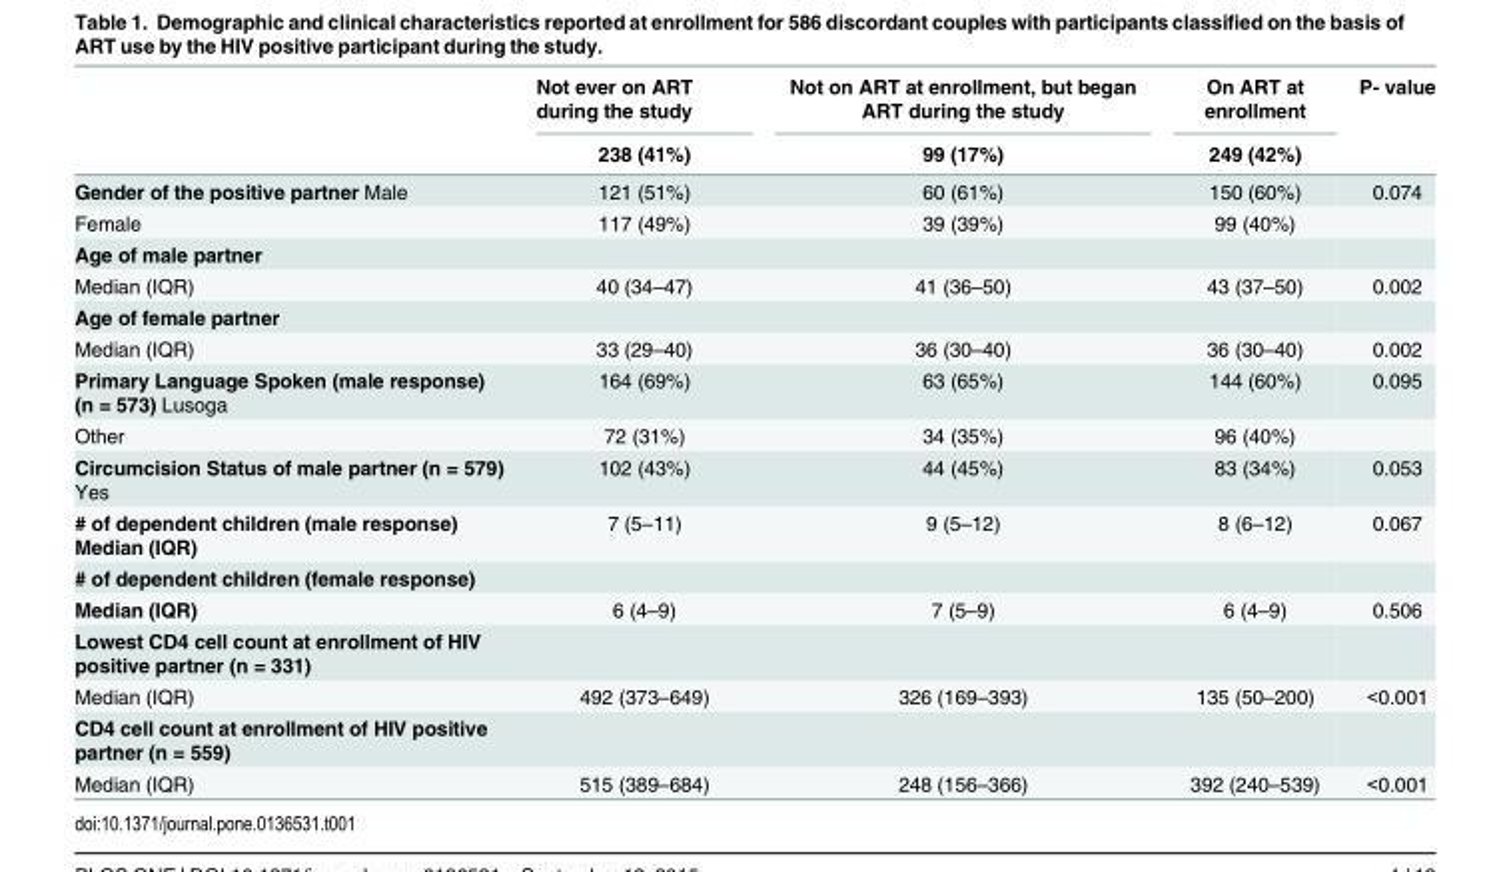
<table><thead><tr><td rowspan="2"></td><td rowspan="2">Not ever on ART during the study 238 (41%)</td><td rowspan="2">Not on ART at enrollment, but began ART during the study 99 (17%)</td><td rowspan="2">On ART at enrollment 249 (42%)</td><td rowspan="2">P- value</td></tr><tr></tr></thead><tbody><tr><td>Gender of the positive partner Male</td><td>121 (51%)</td><td>60 (61%)</td><td>150 (60%)</td><td>0.074</td></tr><tr><td>Female</td><td>117 (49%)</td><td>39 (39%)</td><td>99 (40%)</td><td></td></tr><tr><td colspan="5">Age of male partner</td></tr><tr><td>Median (IQR)</td><td>40 (34–47)</td><td>41 (36–50)</td><td>43 (37–50)</td><td>0.002</td></tr><tr><td colspan="5">Age of female partner</td></tr><tr><td>Median (IQR)</td><td>33 (29–40)</td><td>36 (30–40)</td><td>36 (30–40)</td><td>0.002</td></tr><tr><td>Primary Language Spoken (male response) (n = 573) Lusoga</td><td>164 (69%)</td><td>63 (65%)</td><td>144 (60%)</td><td>0.095</td></tr><tr><td>Other</td><td>72 (31%)</td><td>34 (35%)</td><td>96 (40%)</td><td></td></tr><tr><td>Circumcision Status of male partner (n = 579) Yes</td><td>102 (43%)</td><td>44 (45%)</td><td>83 (34%)</td><td>0.053</td></tr><tr><td># of dependent children (male response) Median (IQR)</td><td>7 (5–11)</td><td>9 (5–12)</td><td>8 (6–12)</td><td>0.067</td></tr><tr><td colspan="5"># of dependent children (female response)</td></tr><tr><td>Median (IQR)</td><td>6 (4–9)</td><td>7 (5–9)</td><td>6 (4–9)</td><td>0.506</td></tr><tr><td colspan="5">Lowest CD4 cell count at enrollment of HIV positive partner (n = 331)</td></tr><tr><td>Median (IQR)</td><td>492 (373–649)</td><td>326 (169–393)</td><td>135 (50–200)</td><td>&lt;0.001</td></tr><tr><td colspan="5">CD4 cell count at enrollment of HIV positive partner (n = 559)</td></tr><tr><td>Median (IQR)</td><td>515 (389–684)</td><td>248 (156–366)</td><td>392 (240–539)</td><td>&lt;0.001</td></tr></tbody></table>